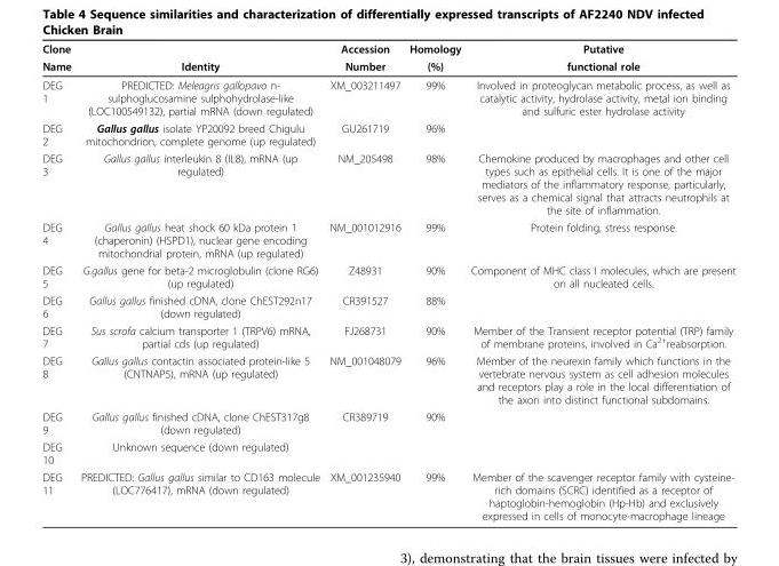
<table><thead><tr><td colspan="2">Clone</td><td rowspan="2">Accession Number</td><td rowspan="2">Homology (%)</td><td rowspan="2">Putative functional role</td></tr><tr><td>Name</td><td>Identity</td></tr></thead><tbody><tr><td>DEG 1</td><td>PREDICTED: Meleagris gallopavo n- sulphoglucosamine sulphohydrolase-like (LOC100549132), partial mRNA (down regulated)</td><td>XM_003211497</td><td>99%</td><td>Involved in proteoglycan metabolic process, as well as catalytic activity, hydrolase activity, metal ion binding and sulfuric ester hydrolase activity</td></tr><tr><td>DEG 2</td><td>Gallus gallus isolate YP20092 breed Chigulu mitochondrion, complete genome (up regulated)</td><td>GU261719</td><td>96%</td><td></td></tr><tr><td>DEG 3</td><td>Gallus gallus interleukin 8 (IL8), mRNA (up regulated)</td><td>NM_205498</td><td>98%</td><td>Chemokine produced by macrophages and other cell types such as epithelial cells. It is one of the major mediators of the inflammatory response, particularly, serves as a chemical signal that attracts neutrophils at the site of inflammation.</td></tr><tr><td>DEG 4</td><td>Gallus gallus heat shock 60 kDa protein 1 (chaperonin) (HSPD1), nuclear gene encoding mitochondrial protein, mRNA (up regulated)</td><td>NM_001012916</td><td>99%</td><td>Protein folding, stress response.</td></tr><tr><td>DEG 5</td><td>G.gallus gene for beta-2 microglobulin (clone RG6) (up regulated)</td><td>Z48931</td><td>90%</td><td>Component of MHC class I molecules, which are present on all nucleated cells.</td></tr><tr><td>DEG 6</td><td>Gallus gallus finished cDNA, clone ChEST292n17 (down regulated)</td><td>CR391527</td><td>88%</td><td></td></tr><tr><td>DEG 7</td><td>Sus scrofa calcium transporter 1 (TRPV6) mRNA, partial cds (up regulated)</td><td>FJ268731</td><td>90%</td><td>Member of the Transient receptor potential (TRP) family of membrane proteins, involved in Ca<sup>2+</sup>reabsorption.</td></tr><tr><td>DEG 8</td><td>Gallus gallus contactin associated protein-like 5 (CNTNAP5), mRNA (up regulated)</td><td>NM_001048079</td><td>96%</td><td>Member of the neurexin family which functions in the vertebrate nervous system as cell adhesion molecules and receptors play a role in the local differentiation of the axon into distinct functional subdomains.</td></tr><tr><td>DEG 9</td><td>Gallus gallus finished cDNA, clone ChEST317g8 (down regulated)</td><td>CR389719</td><td>90%</td><td></td></tr><tr><td>DEG 10</td><td>Unknown sequence (down regulated)</td><td></td><td></td><td></td></tr><tr><td>DEG 11</td><td>PREDICTED: Gallus gallus similar to CD163 molecule (LOC776417), mRNA (down regulated)</td><td>XM_001235940</td><td>99%</td><td>Member of the scavenger receptor family with cysteine- rich domains (SCRC) identified as a receptor of haptoglobin-hemoglobin (Hp-Hb) and exclusively expressed in cells of monocyte-macrophage lineage</td></tr></tbody></table>